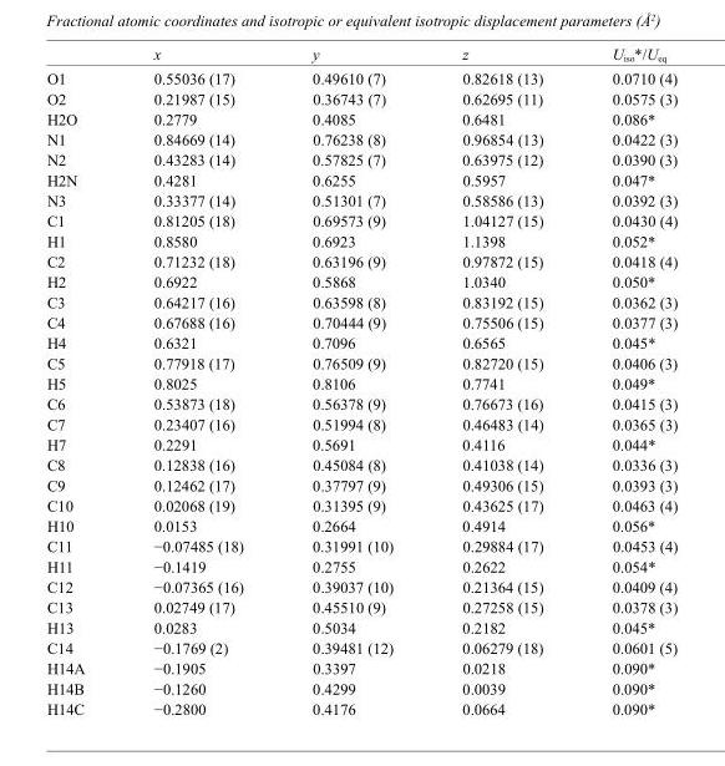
<table><thead><tr><td></td><td>x</td><td>y</td><td>z</td><td>U<sub>iso</sub>*/U<sub>eq</sub></td></tr></thead><tbody><tr><td>O1</td><td>0.55036 (17)</td><td>0.49610 (7)</td><td>0.82618 (13)</td><td>0.0710 (4)</td></tr><tr><td>O2</td><td>0.21987 (15)</td><td>0.36743 (7)</td><td>0.62695 (11)</td><td>0.0575 (3)</td></tr><tr><td>H2O</td><td>0.2779</td><td>0.4085</td><td>0.6481</td><td>0.086*</td></tr><tr><td>N1</td><td>0.84669 (14)</td><td>0.76238 (8)</td><td>0.96854 (13)</td><td>0.0422 (3)</td></tr><tr><td>N2</td><td>0.43283 (14)</td><td>0.57825 (7)</td><td>0.63975 (12)</td><td>0.0390 (3)</td></tr><tr><td>H2N</td><td>0.4281</td><td>0.6255</td><td>0.5957</td><td>0.047*</td></tr><tr><td>N3</td><td>0.33377 (14)</td><td>0.51301 (7)</td><td>0.58586 (13)</td><td>0.0392 (3)</td></tr><tr><td>C1</td><td>0.81205 (18)</td><td>0.69573 (9)</td><td>1.04127 (15)</td><td>0.0430 (4)</td></tr><tr><td>H1</td><td>0.8580</td><td>0.6923</td><td>1.1398</td><td>0.052*</td></tr><tr><td>C2</td><td>0.71232 (18)</td><td>0.63196 (9)</td><td>0.97872 (15)</td><td>0.0418 (4)</td></tr><tr><td>H2</td><td>0.6922</td><td>0.5868</td><td>1.0340</td><td>0.050*</td></tr><tr><td>C3</td><td>0.64217 (16)</td><td>0.63598 (8)</td><td>0.83192 (15)</td><td>0.0362 (3)</td></tr><tr><td>C4</td><td>0.67688 (16)</td><td>0.70444 (9)</td><td>0.75506 (15)</td><td>0.0377 (3)</td></tr><tr><td>H4</td><td>0.6321</td><td>0.7096</td><td>0.6565</td><td>0.045*</td></tr><tr><td>C5</td><td>0.77918 (17)</td><td>0.76509 (9)</td><td>0.82720 (15)</td><td>0.0406 (3)</td></tr><tr><td>H5</td><td>0.8025</td><td>0.8106</td><td>0.7741</td><td>0.049*</td></tr><tr><td>C6</td><td>0.53873 (18)</td><td>0.56378 (9)</td><td>0.76673 (16)</td><td>0.0415 (3)</td></tr><tr><td>C7</td><td>0.23407 (16)</td><td>0.51994 (8)</td><td>0.46483 (14)</td><td>0.0365 (3)</td></tr><tr><td>H7</td><td>0.2291</td><td>0.5691</td><td>0.4116</td><td>0.044*</td></tr><tr><td>C8</td><td>0.12838 (16)</td><td>0.45084 (8)</td><td>0.41038 (14)</td><td>0.0336 (3)</td></tr><tr><td>C9</td><td>0.12462 (17)</td><td>0.37797 (9)</td><td>0.49306 (15)</td><td>0.0393 (3)</td></tr><tr><td>C10</td><td>0.02068 (19)</td><td>0.31395 (9)</td><td>0.43625 (17)</td><td>0.0463 (4)</td></tr><tr><td>H10</td><td>0.0153</td><td>0.2664</td><td>0.4914</td><td>0.056*</td></tr><tr><td>C11</td><td>−0.07485 (18)</td><td>0.31991 (10)</td><td>0.29884 (17)</td><td>0.0453 (4)</td></tr><tr><td>H11</td><td>−0.1419</td><td>0.2755</td><td>0.2622</td><td>0.054*</td></tr><tr><td>C12</td><td>−0.07365 (16)</td><td>0.39037 (10)</td><td>0.21364 (15)</td><td>0.0409 (4)</td></tr><tr><td>C13</td><td>0.02749 (17)</td><td>0.45510 (9)</td><td>0.27258 (15)</td><td>0.0378 (3)</td></tr><tr><td>H13</td><td>0.0283</td><td>0.5034</td><td>0.2182</td><td>0.045*</td></tr><tr><td>C14</td><td>−0.1769 (2)</td><td>0.39481 (12)</td><td>0.06279 (18)</td><td>0.0601 (5)</td></tr><tr><td>H14A</td><td>−0.1905</td><td>0.3397</td><td>0.0218</td><td>0.090*</td></tr><tr><td>H14B</td><td>−0.1260</td><td>0.4299</td><td>0.0039</td><td>0.090*</td></tr><tr><td>H14C</td><td>−0.2800</td><td>0.4176</td><td>0.0664</td><td>0.090*</td></tr></tbody></table>